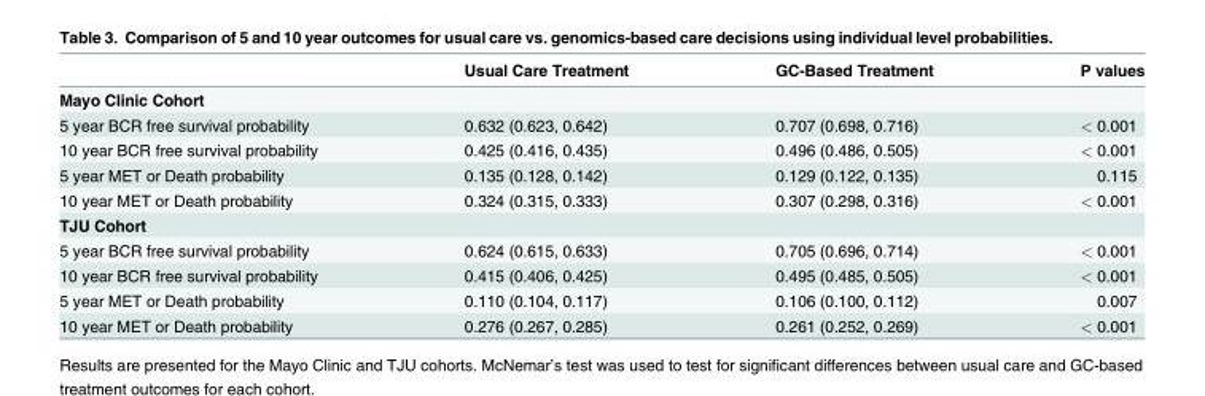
<table><thead><tr><td></td><td>Usual Care Treatment</td><td>GC-Based Treatment</td><td>P values</td></tr></thead><tbody><tr><td colspan="4">Mayo Clinic Cohort</td></tr><tr><td>5 year BCR free survival probability</td><td>0.632 (0.623, 0.642)</td><td>0.707 (0.698, 0.716)</td><td>&lt; 0.001</td></tr><tr><td>10 year BCR free survival probability</td><td>0.425 (0.416, 0.435)</td><td>0.496 (0.486, 0.505)</td><td>&lt; 0.001</td></tr><tr><td>5 year MET or Death probability</td><td>0.135 (0.128, 0.142)</td><td>0.129 (0.122, 0.135)</td><td>0.115</td></tr><tr><td>10 year MET or Death probability</td><td>0.324 (0.315, 0.333)</td><td>0.307 (0.298, 0.316)</td><td>&lt; 0.001</td></tr><tr><td colspan="4">TJU Cohort</td></tr><tr><td>5 year BCR free survival probability</td><td>0.624 (0.615, 0.633)</td><td>0.705 (0.696, 0.714)</td><td>&lt; 0.001</td></tr><tr><td>10 year BCR free survival probability</td><td>0.415 (0.406, 0.425)</td><td>0.495 (0.485, 0.505)</td><td>&lt; 0.001</td></tr><tr><td>5 year MET or Death probability</td><td>0.110 (0.104, 0.117)</td><td>0.106 (0.100, 0.112)</td><td>0.007</td></tr><tr><td>10 year MET or Death probability</td><td>0.276 (0.267, 0.285)</td><td>0.261 (0.252, 0.269)</td><td>&lt; 0.001</td></tr></tbody></table>